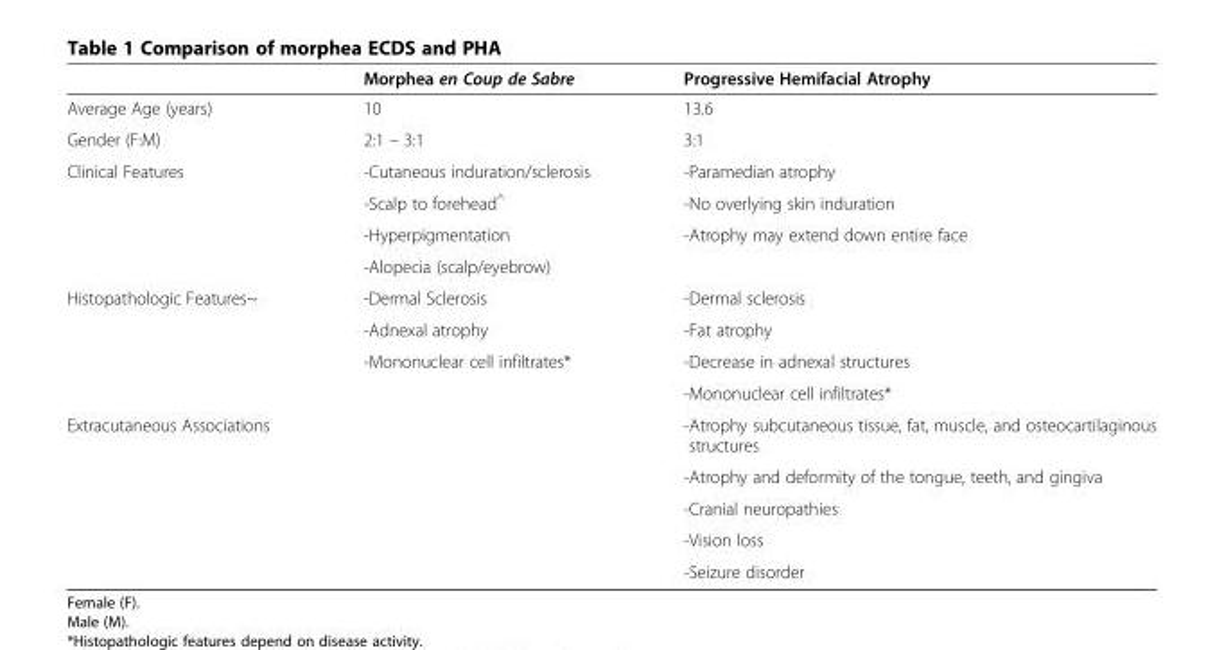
<table><thead><tr><td></td><td>Morphea en Coup de Sabre</td><td>Progressive Hemifacial Atrophy</td></tr></thead><tbody><tr><td>Average Age (years)</td><td>10</td><td>13.6</td></tr><tr><td>Gender (F:M)</td><td>2:1 – 3:1</td><td>3:1</td></tr><tr><td rowspan="4">Clinical Features</td><td>-Cutaneous induration/sclerosis</td><td>-Paramedian atrophy</td></tr><tr><td>-Scalp to forehead<sup>^</sup></td><td>-No overlying skin induration</td></tr><tr><td>-Hyperpigmentation</td><td rowspan="2">-Atrophy may extend down entire face</td></tr><tr><td>-Alopecia (scalp/eyebrow)</td></tr><tr><td rowspan="4">Histopathologic Features~</td><td>-Dermal Sclerosis</td><td>-Dermal sclerosis</td></tr><tr><td>-Adnexal atrophy</td><td>-Fat atrophy</td></tr><tr><td rowspan="2">-Mononuclear cell infiltrates*</td><td>-Decrease in adnexal structures</td></tr><tr><td>-Mononuclear cell infiltrates*</td></tr><tr><td rowspan="5">Extracutaneous Associations</td><td rowspan="5"></td><td>-Atrophy subcutaneous tissue, fat, muscle, and osteocartilaginous structures</td></tr><tr><td>-Atrophy and deformity of the tongue, teeth, and gingiva</td></tr><tr><td>-Cranial neuropathies</td></tr><tr><td>-Vision loss</td></tr><tr><td>-Seizure disorder</td></tr></tbody></table>